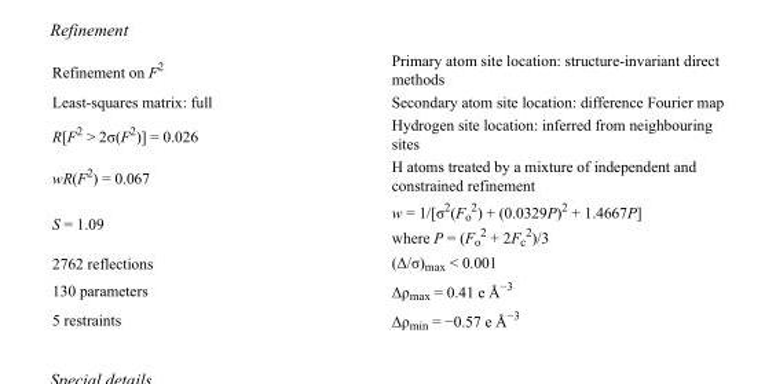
<table><tbody><tr><td>Refinement on F<sup>2</sup></td><td>Primary atom site location: structure-invariant direct methods</td></tr><tr><td>Least-squares matrix: full</td><td>Secondary atom site location: difference Fourier map</td></tr><tr><td>R[F<sup>2</sup> &gt; 2σ(F<sup>2</sup>)] = 0.026</td><td>Hydrogen site location: inferred from neighbouring sites</td></tr><tr><td>wR(F<sup>2</sup>) = 0.067</td><td>H atoms treated by a mixture of independent and constrained refinement</td></tr><tr><td>S = 1.09</td><td>w = 1/[σ<sup>2</sup>(F<sub>o</sub> <sup>2</sup>) + (0.0329P)<sup>2</sup> + 1.4667P] where P = (F<sub>o</sub> <sup>2</sup> + 2F<sub>c</sub> <sup>2</sup>)/3</td></tr><tr><td>2762 reflections</td><td>(Δ/σ)<sub>max</sub> &lt; 0.001</td></tr><tr><td>130 parameters</td><td>Δρ<sub>max</sub> = 0.41 e Å<sup>−3</sup></td></tr><tr><td>5 restraints</td><td>Δρ<sub>min</sub> = −0.57 e Å<sup>−3</sup></td></tr></tbody></table>